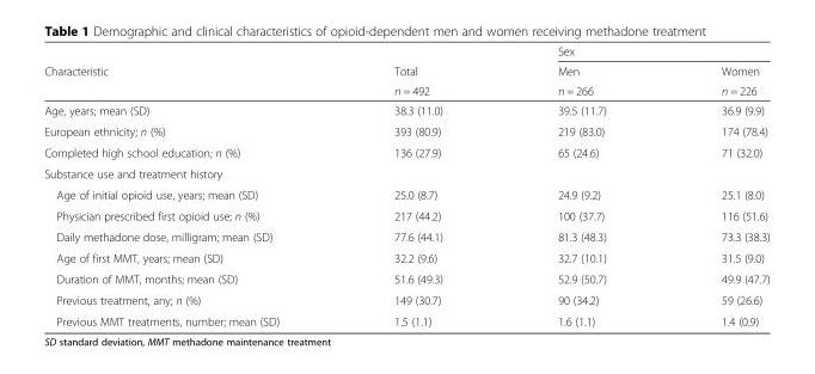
<table><thead><tr><td rowspan="3">Characteristic</td><td rowspan="3">Total n = 492</td><td colspan="2">Sex</td></tr><tr><td rowspan="2">Men n = 266</td><td rowspan="2">Women n = 226</td></tr><tr></tr></thead><tbody><tr><td>Age, years; mean (SD)</td><td>38.3 (11.0)</td><td>39.5 (11.7)</td><td>36.9 (9.9)</td></tr><tr><td>European ethnicity; n (%)</td><td>393 (80.9)</td><td>219 (83.0)</td><td>174 (78.4)</td></tr><tr><td>Completed high school education; n (%)</td><td>136 (27.9)</td><td>65 (24.6)</td><td>71 (32.0)</td></tr><tr><td colspan="4">Substance use and treatment history</td></tr><tr><td>Age of initial opioid use, years; mean (SD)</td><td>25.0 (8.7)</td><td>24.9 (9.2)</td><td>25.1 (8.0)</td></tr><tr><td>Physician prescribed first opioid use; n (%)</td><td>217 (44.2)</td><td>100 (37.7)</td><td>116 (51.6)</td></tr><tr><td>Daily methadone dose, milligram; mean (SD)</td><td>77.6 (44.1)</td><td>81.3 (48.3)</td><td>73.3 (38.3)</td></tr><tr><td>Age of first MMT, years; mean (SD)</td><td>32.2 (9.6)</td><td>32.7 (10.1)</td><td>31.5 (9.0)</td></tr><tr><td>Duration of MMT, months; mean (SD)</td><td>51.6 (49.3)</td><td>52.9 (50.7)</td><td>49.9 (47.7)</td></tr><tr><td>Previous treatment, any; n (%)</td><td>149 (30.7)</td><td>90 (34.2)</td><td>59 (26.6)</td></tr><tr><td>Previous MMT treatments, number; mean (SD)</td><td>1.5 (1.1)</td><td>1.6 (1.1)</td><td>1.4 (0.9)</td></tr></tbody></table>